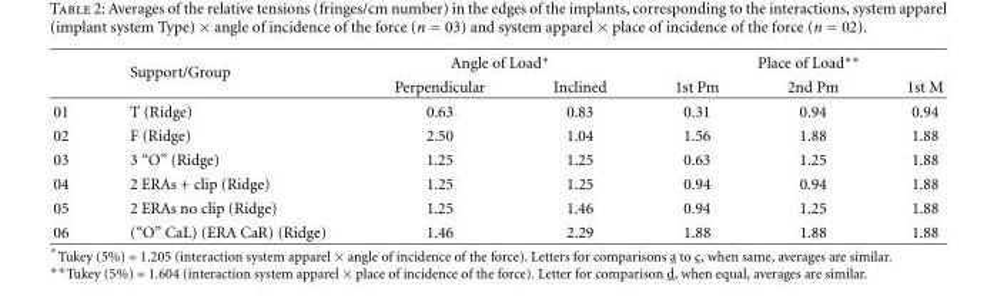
<table><thead><tr><td rowspan="2"></td><td rowspan="2">Support/Group</td><td colspan="2">Angle of Load∗</td><td colspan="3">Place of Load∗∗</td></tr><tr><td>Perpendicular</td><td>Inclined</td><td>1st Pm</td><td>2nd Pm</td><td>1st M</td></tr></thead><tbody><tr><td>01</td><td>T (Ridge)</td><td>0.63</td><td>0.83</td><td>0.31</td><td>0.94</td><td>0.94</td></tr><tr><td>02</td><td>F (Ridge)</td><td>2.50</td><td>1.04</td><td>1.56</td><td>1.88</td><td>1.88</td></tr><tr><td>03</td><td>3 “O” (Ridge)</td><td>1.25</td><td>1.25</td><td>0.63</td><td>1.25</td><td>1.88</td></tr><tr><td>04</td><td>2 ERAs + clip (Ridge)</td><td>1.25</td><td>1.25</td><td>0.94</td><td>0.94</td><td>1.88</td></tr><tr><td>05</td><td>2 ERAs no clip (Ridge)</td><td>1.25</td><td>1.46</td><td>0.94</td><td>1.25</td><td>1.88</td></tr><tr><td>06</td><td>(“O” CaL) (ERA CaR) (Ridge)</td><td>1.46</td><td>2.29</td><td>1.88</td><td>1.88</td><td>1.88</td></tr></tbody></table>